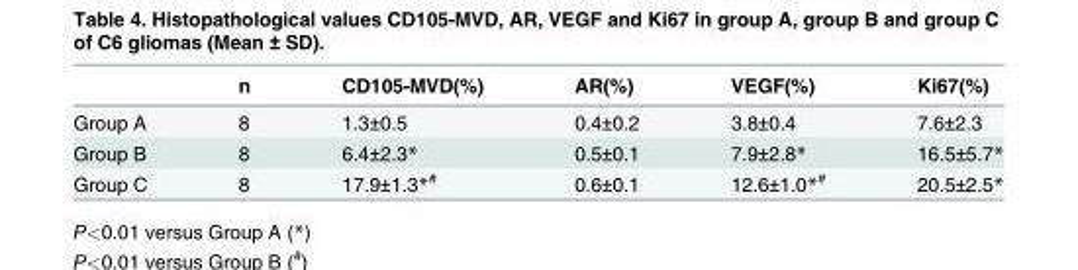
<table><thead><tr><td></td><td>n</td><td>CD105-MVD(%)</td><td>AR(%)</td><td>VEGF(%)</td><td>Ki67(%)</td></tr></thead><tbody><tr><td>Group A</td><td>8</td><td>1.3±0.5</td><td>0.4±0.2</td><td>3.8±0.4</td><td>7.6±2.3</td></tr><tr><td>Group B</td><td>8</td><td>6.4±2.3*</td><td>0.5±0.1</td><td>7.9±2.8*</td><td>16.5±5.7*</td></tr><tr><td>Group C</td><td>8</td><td>17.9±1.3*<sup>#</sup></td><td>0.6±0.1</td><td>12.6±1.0*<sup>#</sup></td><td>20.5±2.5*</td></tr></tbody></table>